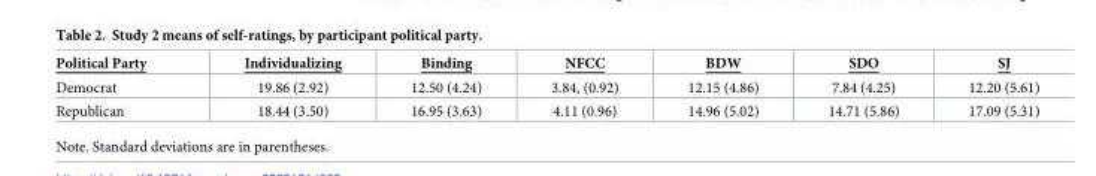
<table><thead><tr><td>Political Party</td><td>Individualizing</td><td>Binding</td><td>NFCC</td><td>BDW</td><td>SDO</td><td>SJ</td></tr></thead><tbody><tr><td>Democrat</td><td>19.86 (2.92)</td><td>12.50 (4.24)</td><td>3.84, (0.92)</td><td>12.15 (4.86)</td><td>7.84 (4.25)</td><td>12.20 (5.61)</td></tr><tr><td>Republican</td><td>18.44 (3.50)</td><td>16.95 (3.63)</td><td>4.11 (0.96)</td><td>14.96 (5.02)</td><td>14.71 (5.86)</td><td>17.09 (5.31)</td></tr></tbody></table>